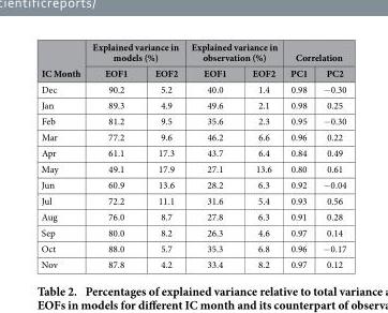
<table><thead><tr><td rowspan="2">IC Month</td><td colspan="2">Explained variance in models (%)</td><td colspan="2">Explained variance in observation (%)</td><td colspan="2">Correlation</td></tr><tr><td>EOF1</td><td>EOF2</td><td>EOF1</td><td>EOF2</td><td>PC1</td><td>PC2</td></tr></thead><tbody><tr><td>Dec</td><td>90.2</td><td>5.2</td><td>40.0</td><td>1.4</td><td>0.98</td><td>− 0.30</td></tr><tr><td>Jan</td><td>89.3</td><td>4.9</td><td>49.6</td><td>2.1</td><td>0.98</td><td>0.25</td></tr><tr><td>Feb</td><td>81.2</td><td>9.5</td><td>35.6</td><td>2.3</td><td>0.95</td><td>− 0.30</td></tr><tr><td>Mar</td><td>77.2</td><td>9.6</td><td>46.2</td><td>6.6</td><td>0.96</td><td>0.22</td></tr><tr><td>Apr</td><td>61.1</td><td>17.3</td><td>43.7</td><td>6.4</td><td>0.84</td><td>0.49</td></tr><tr><td>May</td><td>49.1</td><td>17.9</td><td>27.1</td><td>13.6</td><td>0.80</td><td>0.61</td></tr><tr><td>Jun</td><td>60.9</td><td>13.6</td><td>28.2</td><td>6.3</td><td>0.92</td><td>− 0.04</td></tr><tr><td>Jul</td><td>72.2</td><td>11.1</td><td>31.6</td><td>5.4</td><td>0.93</td><td>0.56</td></tr><tr><td>Aug</td><td>76.0</td><td>8.7</td><td>27.8</td><td>6.3</td><td>0.91</td><td>0.28</td></tr><tr><td>Sep</td><td>80.0</td><td>8.2</td><td>26.3</td><td>4.6</td><td>0.97</td><td>0.14</td></tr><tr><td>Oct</td><td>88.0</td><td>5.7</td><td>35.3</td><td>6.8</td><td>0.96</td><td>− 0.17</td></tr><tr><td>Nov</td><td>87.8</td><td>4.2</td><td>33.4</td><td>8.2</td><td>0.97</td><td>0.12</td></tr></tbody></table>